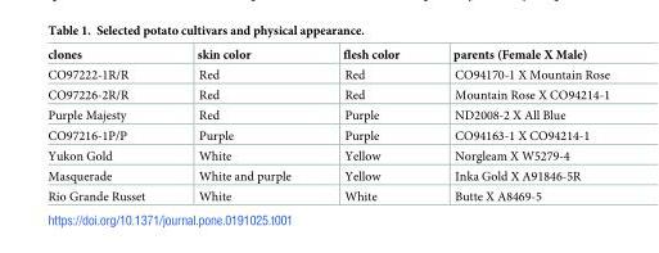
<table><thead><tr><td>clones</td><td>skin color</td><td>flesh color</td><td>parents (Female X Male)</td></tr></thead><tbody><tr><td>CO97222-1R/R</td><td>Red</td><td>Red</td><td>CO94170-1 X Mountain Rose</td></tr><tr><td>CO97226-2R/R</td><td>Red</td><td>Red</td><td>Mountain Rose X CO94214-1</td></tr><tr><td>Purple Majesty</td><td>Red</td><td>Purple</td><td>ND2008-2 X All Blue</td></tr><tr><td>CO97216-1P/P</td><td>Purple</td><td>Purple</td><td>CO94163-1 X CO94214-1</td></tr><tr><td>Yukon Gold</td><td>White</td><td>Yellow</td><td>Norgleam X W5279-4</td></tr><tr><td>Masquerade</td><td>White and purple</td><td>Yellow</td><td>Inka Gold X A91846-5R</td></tr><tr><td>Rio Grande Russet</td><td>White</td><td>White</td><td>Butte X A8469-5</td></tr></tbody></table>